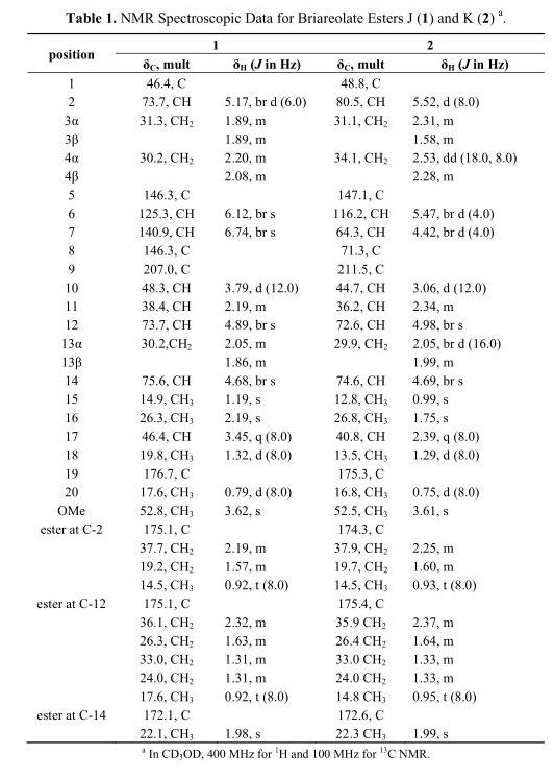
<table><thead><tr><td rowspan="2">position</td><td colspan="2">1</td><td colspan="2">2</td></tr><tr><td>δ<sub>C</sub>, mult</td><td>δ<sub>H</sub> (J in Hz)</td><td>δ<sub>C</sub>, mult</td><td>δ<sub>H</sub> (J in Hz)</td></tr></thead><tbody><tr><td>1</td><td>46.4, C</td><td></td><td>48.8, C</td><td></td></tr><tr><td>2</td><td>73.7, CH</td><td>5.17, br d (6.0)</td><td>80.5, CH</td><td>5.52, d (8.0)</td></tr><tr><td>3α</td><td>31.3, CH<sub>2</sub></td><td>1.89, m</td><td>31.1, CH<sub>2</sub></td><td>2.31, m</td></tr><tr><td>3β</td><td></td><td>1.89, m</td><td></td><td>1.58, m</td></tr><tr><td>4α</td><td>30.2, CH<sub>2</sub></td><td>2.20, m</td><td>34.1, CH<sub>2</sub></td><td>2.53, dd (18.0, 8.0)</td></tr><tr><td>4β</td><td></td><td>2.08, m</td><td></td><td>2.28, m</td></tr><tr><td>5</td><td>146.3, C</td><td></td><td>147.1, C</td><td></td></tr><tr><td>6</td><td>125.3, CH</td><td>6.12, br s</td><td>116.2, CH</td><td>5.47, br d (4.0)</td></tr><tr><td>7</td><td>140.9, CH</td><td>6.74, br s</td><td>64.3, CH</td><td>4.42, br d (4.0)</td></tr><tr><td>8</td><td>146.3, C</td><td></td><td>71.3, C</td><td></td></tr><tr><td>9</td><td>207.0, C</td><td></td><td>211.5, C</td><td></td></tr><tr><td>10</td><td>48.3, CH</td><td>3.79, d (12.0)</td><td>44.7, CH</td><td>3.06, d (12.0)</td></tr><tr><td>11</td><td>38.4, CH</td><td>2.19, m</td><td>36.2, CH</td><td>2.34, m</td></tr><tr><td>12</td><td>73.7, CH</td><td>4.89, br s</td><td>72.6, CH</td><td>4.98, br s</td></tr><tr><td>13α</td><td>30.2,CH<sub>2</sub></td><td>2.05, m</td><td>29.9, CH<sub>2</sub></td><td>2.05, br d (16.0)</td></tr><tr><td>13β</td><td></td><td>1.86, m</td><td></td><td>1.99, m</td></tr><tr><td>14</td><td>75.6, CH</td><td>4.68, br s</td><td>74.6, CH</td><td>4.69, br s</td></tr><tr><td>15</td><td>14.9, CH<sub>3</sub></td><td>1.19, s</td><td>12.8, CH<sub>3</sub></td><td>0.99, s</td></tr><tr><td>16</td><td>26.3, CH<sub>3</sub></td><td>2.19, s</td><td>26.8, CH<sub>3</sub></td><td>1.75, s</td></tr><tr><td>17</td><td>46.4, CH</td><td>3.45, q (8.0)</td><td>40.8, CH</td><td>2.39, q (8.0)</td></tr><tr><td>18</td><td>19.8, CH<sub>3</sub></td><td>1.32, d (8.0)</td><td>13.5, CH<sub>3</sub></td><td>1.29, d (8.0)</td></tr><tr><td>19</td><td>176.7, C</td><td></td><td>175.3, C</td><td></td></tr><tr><td>20</td><td>17.6, CH<sub>3</sub></td><td>0.79, d (8.0)</td><td>16.8, CH<sub>3</sub></td><td>0.75, d (8.0)</td></tr><tr><td>OMe</td><td>52.8, CH<sub>3</sub></td><td>3.62, s</td><td>52.5, CH<sub>3</sub></td><td>3.61, s</td></tr><tr><td rowspan="4">ester at C-2</td><td>175.1, C</td><td></td><td>174.3, C</td><td></td></tr><tr><td>37.7, CH<sub>2</sub></td><td>2.19, m</td><td>37.9, CH<sub>2</sub></td><td>2.25, m</td></tr><tr><td>19.2, CH<sub>2</sub></td><td>1.57, m</td><td>19.7, CH<sub>2</sub></td><td>1.60, m</td></tr><tr><td>14.5, CH<sub>3</sub></td><td>0.92, t (8.0)</td><td>14.5, CH<sub>3</sub></td><td>0.93, t (8.0)</td></tr><tr><td rowspan="6">ester at C-12</td><td>175.1, C</td><td></td><td>175.4, C</td><td></td></tr><tr><td>36.1, CH<sub>2</sub></td><td>2.32, m</td><td>35.9 CH<sub>2</sub></td><td>2.37, m</td></tr><tr><td>26.3, CH<sub>2</sub></td><td>1.63, m</td><td>26.4 CH<sub>2</sub></td><td>1.64, m</td></tr><tr><td>33.0, CH<sub>2</sub></td><td>1.31, m</td><td>33.0 CH<sub>2</sub></td><td>1.33, m</td></tr><tr><td>24.0, CH<sub>2</sub></td><td>1.31, m</td><td>24.0 CH<sub>2</sub></td><td>1.33, m</td></tr><tr><td>17.6, CH<sub>3</sub></td><td>0.92, t (8.0)</td><td>14.8 CH<sub>3</sub></td><td>0.95, t (8.0)</td></tr><tr><td rowspan="2">ester at C-14</td><td>172.1, C</td><td></td><td>172.6, C</td><td></td></tr><tr><td>22.1, CH<sub>3</sub></td><td>1.98, s</td><td>22.3 CH<sub>3</sub></td><td>1.99, s</td></tr></tbody></table>